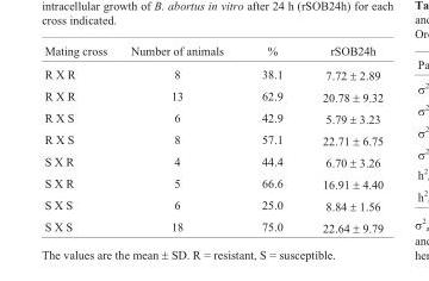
<table><thead><tr><td>Mating cross</td><td>Number of animals</td><td>%</td><td>rSOB24h</td></tr></thead><tbody><tr><td>R X R</td><td>8</td><td>38.1</td><td>7.72 ± 2.89</td></tr><tr><td>R X R</td><td>13</td><td>62.9</td><td>20.78 ± 9.32</td></tr><tr><td>R X S</td><td>6</td><td>42.9</td><td>5.79 ± 3.23</td></tr><tr><td>R X S</td><td>8</td><td>57.1</td><td>22.71 ± 6.75</td></tr><tr><td>S X R</td><td>4</td><td>44.4</td><td>6.70 ± 3.26</td></tr><tr><td>S X R</td><td>5</td><td>66.6</td><td>16.91 ± 4.40</td></tr><tr><td>S X S</td><td>6</td><td>25.0</td><td>8.84 ± 1.56</td></tr><tr><td>S X S</td><td>18</td><td>75.0</td><td>22.64 ± 9.79</td></tr></tbody></table>